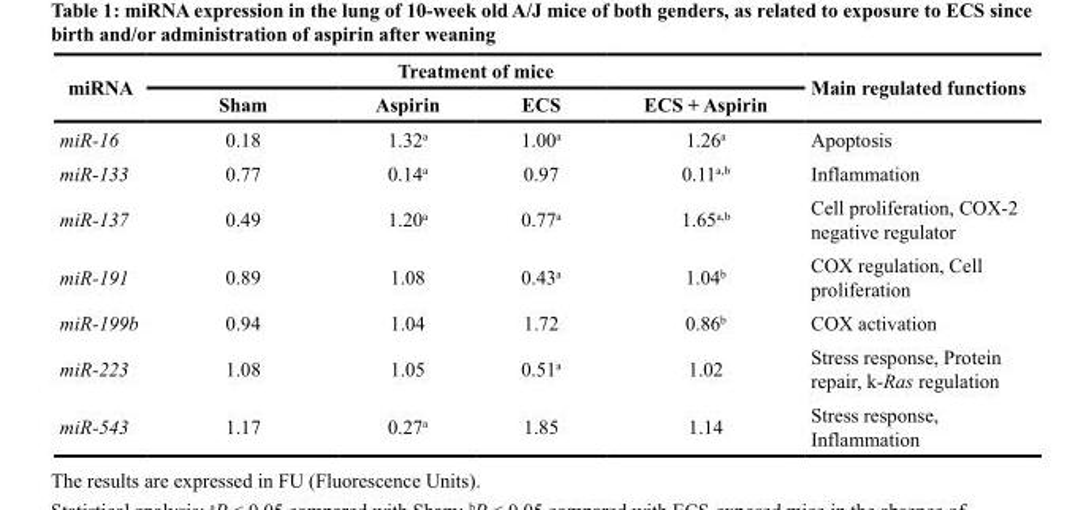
<table><thead><tr><td rowspan="2">miRNA</td><td colspan="4">Treatment of mice</td><td rowspan="2">Main regulated functions</td></tr><tr><td>Sham</td><td>Aspirin</td><td>ECS</td><td>ECS + Aspirin</td></tr></thead><tbody><tr><td>miR-16</td><td>0.18</td><td>1.32<sup>a</sup></td><td>1.00<sup>a</sup></td><td>1.26<sup>a</sup></td><td>Apoptosis</td></tr><tr><td>miR-133</td><td>0.77</td><td>0.14<sup>a</sup></td><td>0.97</td><td>0.11<sup>a,b</sup></td><td>Inflammation</td></tr><tr><td>miR-137</td><td>0.49</td><td>1.20<sup>a</sup></td><td>0.77<sup>a</sup></td><td>1.65<sup>a,b</sup></td><td>Cell proliferation, COX-2 negative regulator</td></tr><tr><td>miR-191</td><td>0.89</td><td>1.08</td><td>0.43<sup>a</sup></td><td>1.04<sup>b</sup></td><td>COX regulation, Cell proliferation</td></tr><tr><td>miR-199b</td><td>0.94</td><td>1.04</td><td>1.72</td><td>0.86<sup>b</sup></td><td>COX activation</td></tr><tr><td>miR-223</td><td>1.08</td><td>1.05</td><td>0.51<sup>a</sup></td><td>1.02</td><td>Stress response, Protein repair, k-Ras regulation</td></tr><tr><td>miR-543</td><td>1.17</td><td>0.27<sup>a</sup></td><td>1.85</td><td>1.14</td><td>Stress response, Inflammation</td></tr></tbody></table>